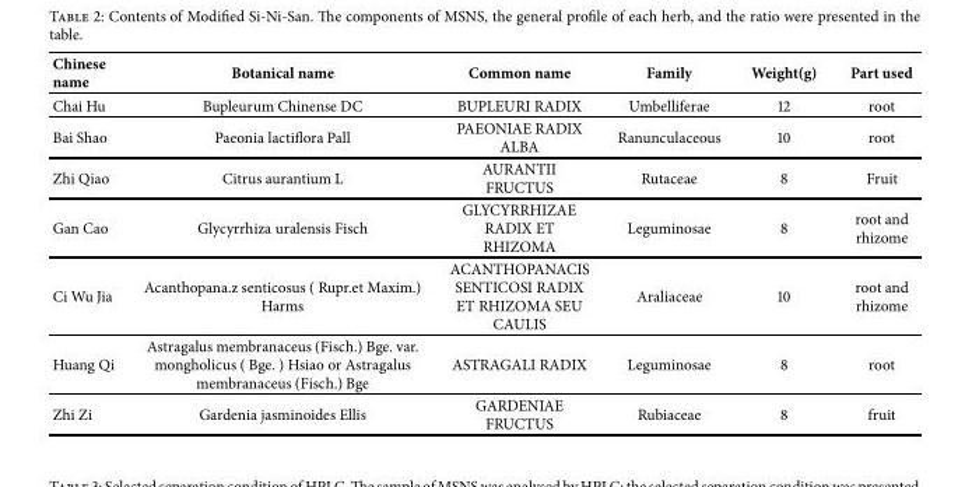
<table><thead><tr><td>Chinese name</td><td>Botanical name</td><td>Common name</td><td>Family</td><td>Weight(g)</td><td>Part used</td></tr></thead><tbody><tr><td>Chai Hu</td><td>Bupleurum Chinense DC</td><td>BUPLEURI RADIX</td><td>Umbelliferae</td><td>12</td><td>root</td></tr><tr><td>Bai Shao</td><td>Paeonia lactiflora Pall</td><td>PAEONIAE RADIX ALBA</td><td>Ranunculaceous</td><td>10</td><td>root</td></tr><tr><td>Zhi Qiao</td><td>Citrus aurantium L</td><td>AURANTII FRUCTUS</td><td>Rutaceae</td><td>8</td><td>Fruit</td></tr><tr><td>Gan Cao</td><td>Glycyrrhiza uralensis Fisch</td><td>GLYCYRRHIZAE RADIX ET RHIZOMA</td><td>Leguminosae</td><td>8</td><td>root and rhizome</td></tr><tr><td>Ci Wu Jia</td><td>Acanthopana.z senticosus ( Rupr.et Maxim.) Harms</td><td>ACANTHOPANACIS SENTICOSI RADIX ET RHIZOMA SEU CAULIS</td><td>Araliaceae</td><td>10</td><td>root and rhizome</td></tr><tr><td>Huang Qi</td><td>Astragalus membranaceus (Fisch.) Bge. var. mongholicus ( Bge. ) Hsiao or Astragalus membranaceus (Fisch.) Bge</td><td>ASTRAGALI RADIX</td><td>Leguminosae</td><td>8</td><td>root</td></tr><tr><td>Zhi Zi</td><td>Gardenia jasminoides Ellis</td><td>GARDENIAE FRUCTUS</td><td>Rubiaceae</td><td>8</td><td>fruit</td></tr></tbody></table>